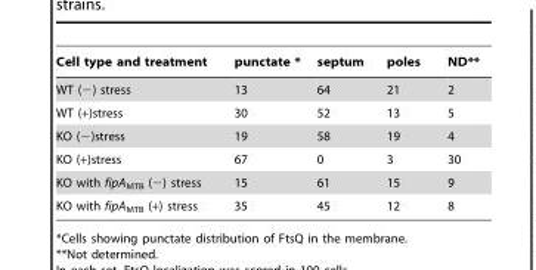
<table><thead><tr><td>Cell type and treatment</td><td>punctate *</td><td>septum</td><td>poles</td><td>ND**</td></tr></thead><tbody><tr><td>WT (−) stress</td><td>13</td><td>64</td><td>21</td><td>2</td></tr><tr><td>WT (+)stress</td><td>30</td><td>52</td><td>13</td><td>5</td></tr><tr><td>KO (−)stress</td><td>19</td><td>58</td><td>19</td><td>4</td></tr><tr><td>KO (+)stress</td><td>67</td><td>0</td><td>3</td><td>30</td></tr><tr><td>KO with fipAMTB (−) stress</td><td>15</td><td>61</td><td>15</td><td>9</td></tr><tr><td>KO with fipAMTB (+) stress</td><td>35</td><td>45</td><td>12</td><td>8</td></tr></tbody></table>